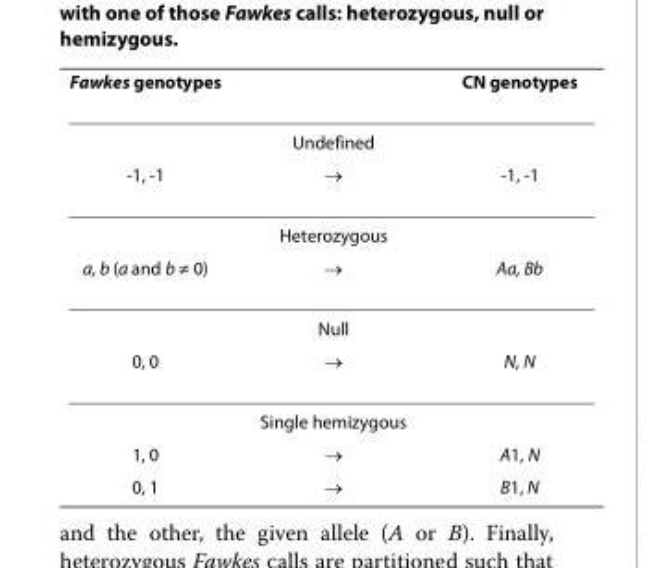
<table><thead><tr><td>Fawkes genotypes</td><td></td><td>CN genotypes</td></tr></thead><tbody><tr><td></td><td>Undefined</td><td></td></tr><tr><td rowspan="2">-1, -1</td><td>→</td><td>-1, -1</td></tr><tr><td>Heterozygous</td><td></td></tr><tr><td rowspan="2">a, b (a and b ≠ 0)</td><td>→</td><td>Aa, Bb</td></tr><tr><td>Null</td><td></td></tr><tr><td rowspan="2">0, 0</td><td>→</td><td>N, N</td></tr><tr><td>Single hemizygous</td><td></td></tr><tr><td>1, 0</td><td>→</td><td>A1, N</td></tr><tr><td>0, 1</td><td>→</td><td>B1, N</td></tr></tbody></table>